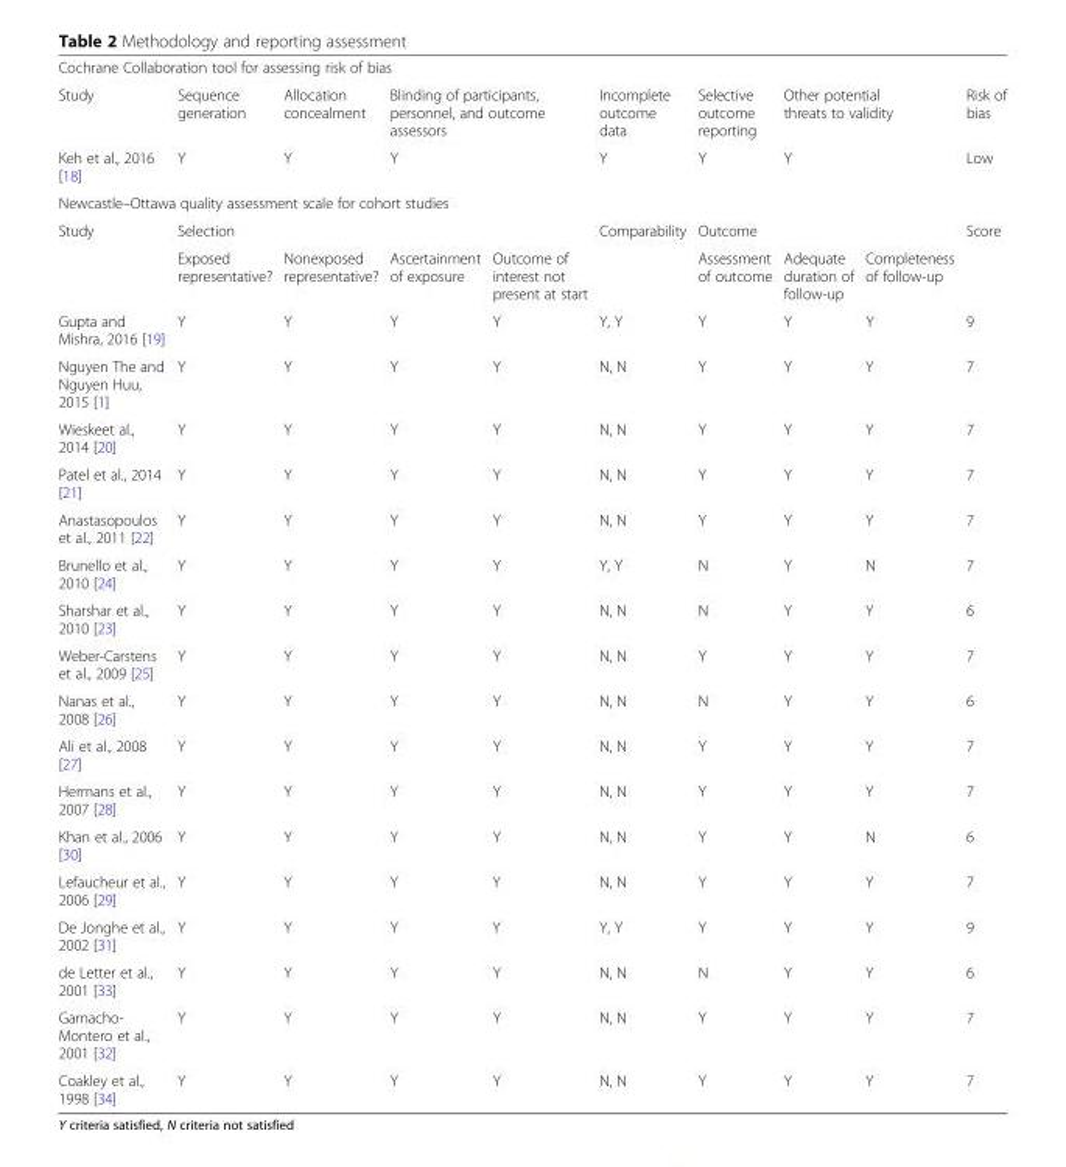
<table><tbody><tr><td colspan="10">Cochrane Collaboration tool for assessing risk of bias</td></tr><tr><td>Study</td><td>Sequence generation</td><td>Allocation concealment</td><td colspan="2">Blinding of participants, personnel, and outcome assessors</td><td>Incomplete outcome data</td><td>Selective outcome reporting</td><td colspan="2">Other potential threats to validity</td><td>Risk of bias</td></tr><tr><td>Keh et al., 2016 [18]</td><td>Y</td><td>Y</td><td>Y</td><td></td><td>Y</td><td>Y</td><td>Y</td><td></td><td>Low</td></tr><tr><td colspan="10">Newcastle–Ottawa quality assessment scale for cohort studies</td></tr><tr><td rowspan="2">Study</td><td colspan="4">Selection</td><td>Comparability</td><td colspan="3">Outcome</td><td>Score</td></tr><tr><td>Exposed representative?</td><td>Nonexposed representative?</td><td>Ascertainment of exposure</td><td>Outcome of interest not present at start</td><td></td><td>Assessment of outcome</td><td>Adequate duration of follow-up</td><td>Completeness of follow-up</td><td></td></tr><tr><td>Gupta and Mishra, 2016 [19]</td><td>Y</td><td>Y</td><td>Y</td><td>Y</td><td>Y, Y</td><td>Y</td><td>Y</td><td>Y</td><td>9</td></tr><tr><td>Nguyen The and Nguyen Huu, 2015 [1]</td><td>Y</td><td>Y</td><td>Y</td><td>Y</td><td>N, N</td><td>Y</td><td>Y</td><td>Y</td><td>7</td></tr><tr><td>Wieskeet al., 2014 [20]</td><td>Y</td><td>Y</td><td>Y</td><td>Y</td><td>N, N</td><td>Y</td><td>Y</td><td>Y</td><td>7</td></tr><tr><td>Patel et al., 2014 [21]</td><td>Y</td><td>Y</td><td>Y</td><td>Y</td><td>N, N</td><td>Y</td><td>Y</td><td>Y</td><td>7</td></tr><tr><td>Anastasopoulos et al., 2011 [22]</td><td>Y</td><td>Y</td><td>Y</td><td>Y</td><td>N, N</td><td>Y</td><td>Y</td><td>Y</td><td>7</td></tr><tr><td>Brunello et al., 2010 [24]</td><td>Y</td><td>Y</td><td>Y</td><td>Y</td><td>Y, Y</td><td>N</td><td>Y</td><td>N</td><td>7</td></tr><tr><td>Sharshar et al., 2010 [23]</td><td>Y</td><td>Y</td><td>Y</td><td>Y</td><td>N, N</td><td>N</td><td>Y</td><td>Y</td><td>6</td></tr><tr><td>Weber-Carstens et al., 2009 [25]</td><td>Y</td><td>Y</td><td>Y</td><td>Y</td><td>N, N</td><td>Y</td><td>Y</td><td>Y</td><td>7</td></tr><tr><td>Nanas et al., 2008 [26]</td><td>Y</td><td>Y</td><td>Y</td><td>Y</td><td>N, N</td><td>N</td><td>Y</td><td>Y</td><td>6</td></tr><tr><td>Ali et al., 2008 [27]</td><td>Y</td><td>Y</td><td>Y</td><td>Y</td><td>N, N</td><td>Y</td><td>Y</td><td>Y</td><td>7</td></tr><tr><td>Hermans et al., 2007 [28]</td><td>Y</td><td>Y</td><td>Y</td><td>Y</td><td>N, N</td><td>Y</td><td>Y</td><td>Y</td><td>7</td></tr><tr><td>Khan et al., 2006 [30]</td><td>Y</td><td>Y</td><td>Y</td><td>Y</td><td>N, N</td><td>Y</td><td>Y</td><td>N</td><td>6</td></tr><tr><td>Lefaucheur et al., 2006 [29]</td><td>Y</td><td>Y</td><td>Y</td><td>Y</td><td>N, N</td><td>Y</td><td>Y</td><td>Y</td><td>7</td></tr><tr><td>De Jonghe et al., 2002 [31]</td><td>Y</td><td>Y</td><td>Y</td><td>Y</td><td>Y, Y</td><td>Y</td><td>Y</td><td>Y</td><td>9</td></tr><tr><td>de Letter et al., 2001 [33]</td><td>Y</td><td>Y</td><td>Y</td><td>Y</td><td>N, N</td><td>N</td><td>Y</td><td>Y</td><td>6</td></tr><tr><td>Garnacho- Montero et al., 2001 [32]</td><td>Y</td><td>Y</td><td>Y</td><td>Y</td><td>N, N</td><td>Y</td><td>Y</td><td>Y</td><td>7</td></tr><tr><td>Coakley et al., 1998 [34]</td><td>Y</td><td>Y</td><td>Y</td><td>Y</td><td>N, N</td><td>Y</td><td>Y</td><td>Y</td><td>7</td></tr></tbody></table>